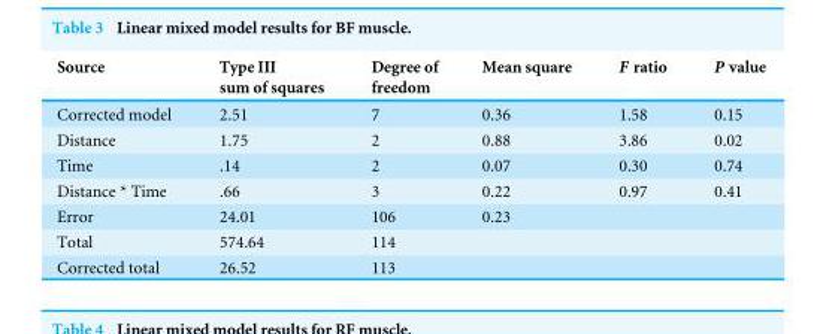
<table><thead><tr><td>Source</td><td>Type III sum of squares</td><td>Degree of freedom</td><td>Mean square</td><td>F ratio</td><td>P value</td></tr></thead><tbody><tr><td>Corrected model</td><td>2.51</td><td>7</td><td>0.36</td><td>1.58</td><td>0.15</td></tr><tr><td>Distance</td><td>1.75</td><td>2</td><td>0.88</td><td>3.86</td><td>0.02</td></tr><tr><td>Time</td><td>.14</td><td>2</td><td>0.07</td><td>0.30</td><td>0.74</td></tr><tr><td>Distance * Time</td><td>.66</td><td>3</td><td>0.22</td><td>0.97</td><td>0.41</td></tr><tr><td>Error</td><td>24.01</td><td>106</td><td>0.23</td><td></td><td></td></tr><tr><td>Total</td><td>574.64</td><td>114</td><td></td><td></td><td></td></tr><tr><td>Corrected total</td><td>26.52</td><td>113</td><td></td><td></td><td></td></tr></tbody></table>